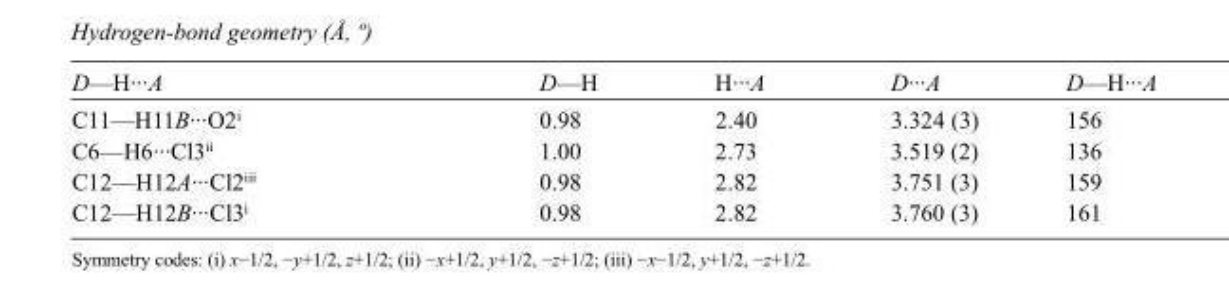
<table><tbody><tr><td>D—H···A</td><td>D—H</td><td>H···A</td><td>D···A</td><td>D—H···A</td></tr><tr><td>C11—H11B···O2<sup>i</sup></td><td>0.98</td><td>2.40</td><td>3.324 (3)</td><td>156</td></tr><tr><td>C6—H6···Cl3<sup>ii</sup></td><td>1.00</td><td>2.73</td><td>3.519 (2)</td><td>136</td></tr><tr><td>C12—H12A···Cl2<sup>iii</sup></td><td>0.98</td><td>2.82</td><td>3.751 (3)</td><td>159</td></tr><tr><td>C12—H12B···Cl3<sup>i</sup></td><td>0.98</td><td>2.82</td><td>3.760 (3)</td><td>161</td></tr></tbody></table>